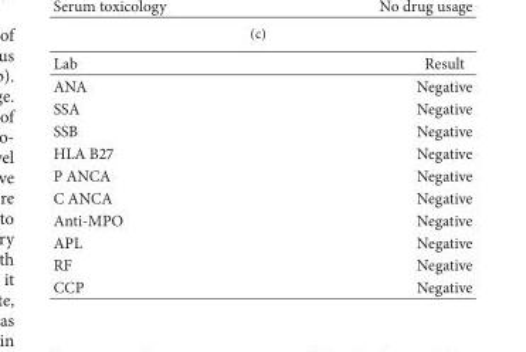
<table><thead><tr><td>Lab</td><td>Result</td></tr></thead><tbody><tr><td>ANA</td><td>Negative</td></tr><tr><td>SSA</td><td>Negative</td></tr><tr><td>SSB</td><td>Negative</td></tr><tr><td>HLA B27</td><td>Negative</td></tr><tr><td>P ANCA</td><td>Negative</td></tr><tr><td>C ANCA</td><td>Negative</td></tr><tr><td>Anti-MPO</td><td>Negative</td></tr><tr><td>APL</td><td>Negative</td></tr><tr><td>RF</td><td>Negative</td></tr><tr><td>CCP</td><td>Negative</td></tr></tbody></table>